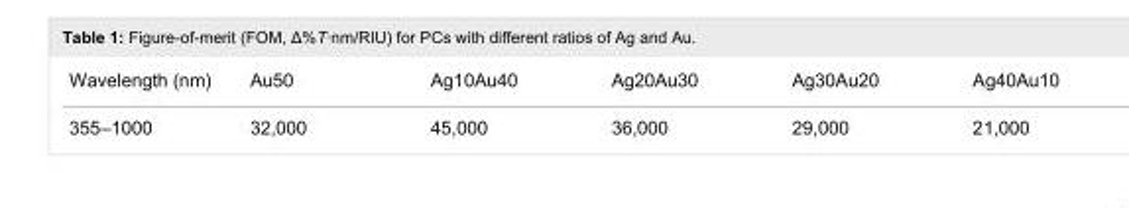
<table><tbody><tr><td>Wavelength (nm)</td><td>Au50</td><td>Ag10Au40</td><td>Ag20Au30</td><td>Ag30Au20</td><td>Ag40Au10</td></tr><tr><td>355–1000</td><td>32,000</td><td>45,000</td><td>36,000</td><td>29,000</td><td>21,000</td></tr></tbody></table>